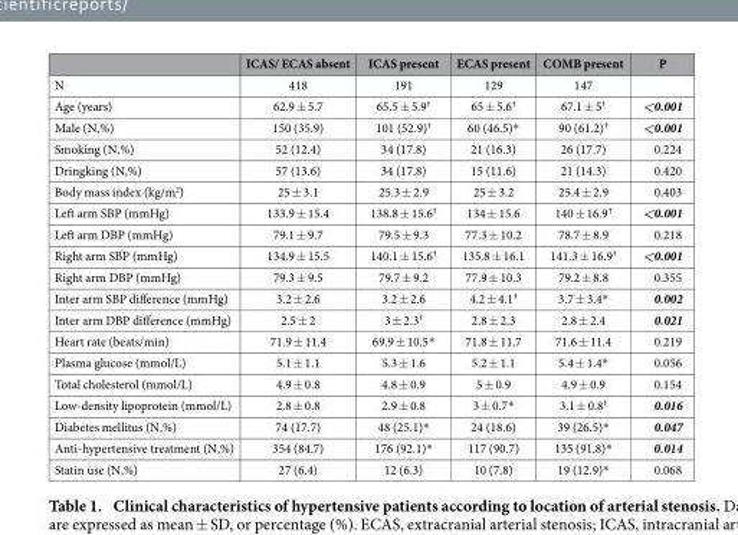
<table><thead><tr><td></td><td>ICAS/ ECAS absent</td><td>ICAS present</td><td>ECAS present</td><td>COMB present</td><td>P</td></tr></thead><tbody><tr><td>N</td><td>418</td><td>191</td><td>129</td><td>147</td><td></td></tr><tr><td>Age (years)</td><td>62.9 ± 5.7</td><td>65.5 ± 5.9<sup>†</sup></td><td>65 ± 5.6<sup>†</sup></td><td>67.1 ± 5<sup>†</sup></td><td>&lt;0.001</td></tr><tr><td>Male (N,%)</td><td>150 (35.9)</td><td>101 (52.9)<sup>†</sup></td><td>60 (46.5)*</td><td>90 (61.2)<sup>†</sup></td><td>&lt;0.001</td></tr><tr><td>Smoking (N,%)</td><td>52 (12.4)</td><td>34 (17.8)</td><td>21 (16.3)</td><td>26 (17.7)</td><td>0.224</td></tr><tr><td>Dringking (N,%)</td><td>57 (13.6)</td><td>34 (17.8)</td><td>15 (11.6)</td><td>21 (14.3)</td><td>0.420</td></tr><tr><td>Body mass index (kg/m<sup>2</sup>)</td><td>25 ± 3.1</td><td>25.3 ± 2.9</td><td>25 ± 3.2</td><td>25.4 ± 2.9</td><td>0.403</td></tr><tr><td>Left arm SBP (mmHg)</td><td>133.9 ± 15.4</td><td>138.8 ± 15.6<sup>†</sup></td><td>134 ± 15.6</td><td>140 ± 16.9<sup>†</sup></td><td>&lt;0.001</td></tr><tr><td>Left arm DBP (mmHg)</td><td>79.1 ± 9.7</td><td>79.5 ± 9.3</td><td>77.3 ± 10.2</td><td>78.7 ± 8.9</td><td>0.218</td></tr><tr><td>Right arm SBP (mmHg)</td><td>134.9 ± 15.5</td><td>140.1 ± 15.6<sup>†</sup></td><td>135.8 ± 16.1</td><td>141.3 ± 16.9<sup>†</sup></td><td>&lt;0.001</td></tr><tr><td>Right arm DBP (mmHg)</td><td>79.3 ± 9.5</td><td>79.7 ± 9.2</td><td>77.9 ± 10.3</td><td>79.2 ± 8.8</td><td>0.355</td></tr><tr><td>Inter arm SBP difference (mmHg)</td><td>3.2 ± 2.6</td><td>3.2 ± 2.6</td><td>4.2 ± 4.1<sup>†</sup></td><td>3.7 ± 3.4*</td><td>0.002</td></tr><tr><td>Inter arm DBP difference (mmHg)</td><td>2.5 ± 2</td><td>3 ± 2.3<sup>†</sup></td><td>2.8 ± 2.3</td><td>2.8 ± 2.4</td><td>0.021</td></tr><tr><td>Heart rate (beats/min)</td><td>71.9 ± 11.4</td><td>69.9 ± 10.5*</td><td>71.8 ± 11.7</td><td>71.6 ± 11.4</td><td>0.219</td></tr><tr><td>Plasma glucose (mmol/L)</td><td>5.1 ± 1.1</td><td>5.3 ± 1.6</td><td>5.2 ± 1.1</td><td>5.4 ± 1.4*</td><td>0.056</td></tr><tr><td>Total cholesterol (mmol/L)</td><td>4.9 ± 0.8</td><td>4.8 ± 0.9</td><td>5 ± 0.9</td><td>4.9 ± 0.9</td><td>0.154</td></tr><tr><td>Low-density lipoprotein (mmol/L)</td><td>2.8 ± 0.8</td><td>2.9 ± 0.8</td><td>3 ± 0.7*</td><td>3.1 ± 0.8<sup>†</sup></td><td>0.016</td></tr><tr><td>Diabetes mellitus (N,%)</td><td>74 (17.7)</td><td>48 (25.1)*</td><td>24 (18.6)</td><td>39 (26.5)*</td><td>0.047</td></tr><tr><td>Anti-hypertensive treatment (N,%)</td><td>354 (84.7)</td><td>176 (92.1)*</td><td>117 (90.7)</td><td>135 (91.8)*</td><td>0.014</td></tr><tr><td>Statin use (N,%)</td><td>27 (6.4)</td><td>12 (6.3)</td><td>10 (7.8)</td><td>19 (12.9)*</td><td>0.068</td></tr></tbody></table>